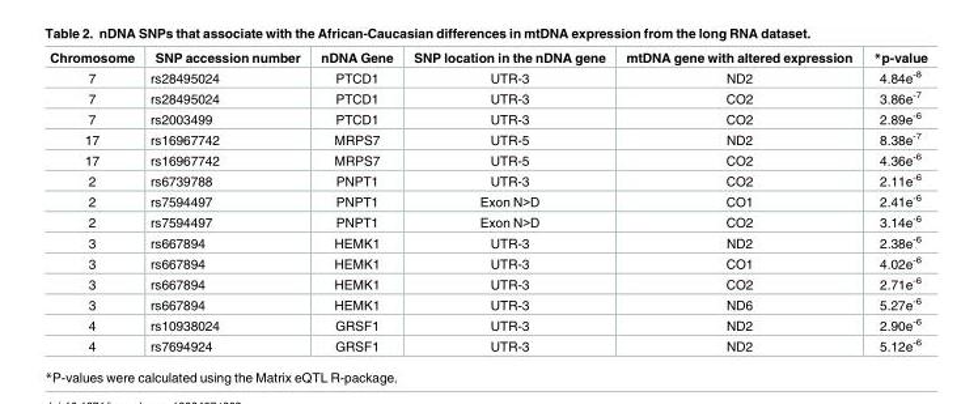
<table><tbody><tr><td>Chromosome</td><td>SNP accession number</td><td>nDNA Gene</td><td>SNP location in the nDNA gene</td><td>mtDNA gene with altered expression</td><td>*p-value</td></tr><tr><td>7</td><td>rs28495024</td><td>PTCD1</td><td>UTR-3</td><td>ND2</td><td>4.84e<sup>-8</sup></td></tr><tr><td>7</td><td>rs28495024</td><td>PTCD1</td><td>UTR-3</td><td>CO2</td><td>3.86e<sup>-7</sup></td></tr><tr><td>7</td><td>rs2003499</td><td>PTCD1</td><td>UTR-3</td><td>CO2</td><td>2.89e<sup>-6</sup></td></tr><tr><td>17</td><td>rs16967742</td><td>MRPS7</td><td>UTR-5</td><td>ND2</td><td>8.38e<sup>-7</sup></td></tr><tr><td>17</td><td>rs16967742</td><td>MRPS7</td><td>UTR-5</td><td>CO2</td><td>4.36e<sup>-6</sup></td></tr><tr><td>2</td><td>rs6739788</td><td>PNPT1</td><td>UTR-3</td><td>CO2</td><td>2.11e<sup>-6</sup></td></tr><tr><td>2</td><td>rs7594497</td><td>PNPT1</td><td>Exon N&gt;D</td><td>CO1</td><td>2.41e<sup>-6</sup></td></tr><tr><td>2</td><td>rs7594497</td><td>PNPT1</td><td>Exon N&gt;D</td><td>CO2</td><td>3.14e<sup>-6</sup></td></tr><tr><td>3</td><td>rs667894</td><td>HEMK1</td><td>UTR-3</td><td>ND2</td><td>2.38e<sup>-6</sup></td></tr><tr><td>3</td><td>rs667894</td><td>HEMK1</td><td>UTR-3</td><td>CO1</td><td>4.02e<sup>-6</sup></td></tr><tr><td>3</td><td>rs667894</td><td>HEMK1</td><td>UTR-3</td><td>CO2</td><td>2.71e<sup>-6</sup></td></tr><tr><td>3</td><td>rs667894</td><td>HEMK1</td><td>UTR-3</td><td>ND6</td><td>5.27e<sup>-6</sup></td></tr><tr><td>4</td><td>rs10938024</td><td>GRSF1</td><td>UTR-3</td><td>ND2</td><td>2.90e<sup>-6</sup></td></tr><tr><td>4</td><td>rs7694924</td><td>GRSF1</td><td>UTR-3</td><td>ND2</td><td>5.12e<sup>-6</sup></td></tr></tbody></table>